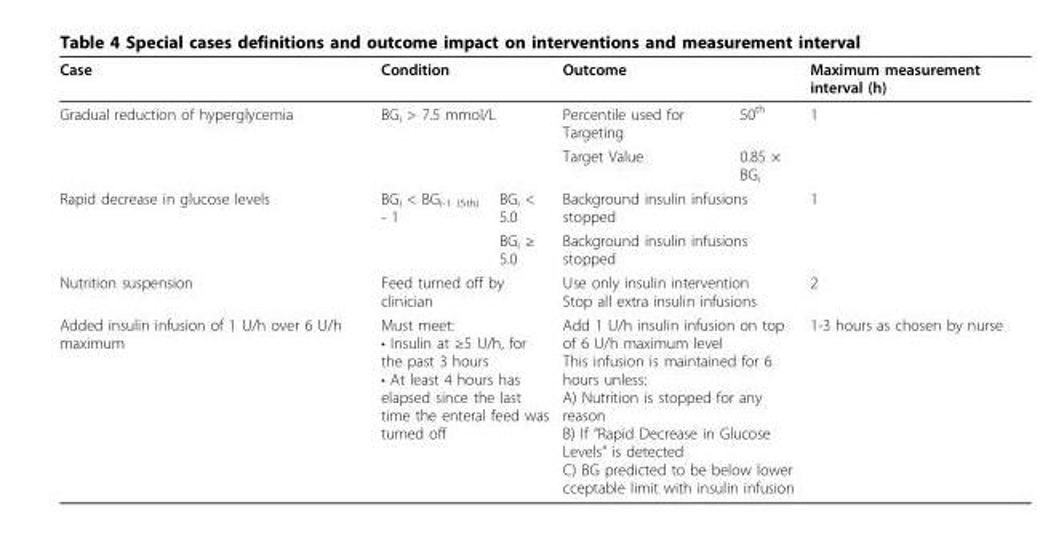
<table><thead><tr><td rowspan="3">Case Gradual reduction of hyperglycemia</td><td rowspan="2" colspan="2">Condition BG<sub>i</sub> &gt; 7.5 mmol/L</td><td colspan="2">Outcome</td><td rowspan="3">Maximum measurement interval (h) 1</td></tr><tr><td rowspan="2">Percentile used for Targeting Target Value</td><td rowspan="2">50<sup>th</sup> 0.85 × BG<sub>i</sub></td></tr><tr><td></td><td></td></tr></thead><tbody><tr><td rowspan="2">Rapid decrease in glucose levels</td><td>BG<sub>i</sub> &lt; BG<sub>i-1 (5th)</sub> - 1</td><td>BG<sub>i</sub> &lt; 5.0</td><td colspan="2">Background insulin infusions stopped</td><td>1</td></tr><tr><td></td><td>BG<sub>i</sub> ≥ 5.0</td><td colspan="2">Background insulin infusions stopped</td><td></td></tr><tr><td>Nutrition suspension</td><td colspan="2">Feed turned off by clinician</td><td colspan="2">Use only insulin intervention Stop all extra insulin infusions</td><td>2</td></tr><tr><td>Added insulin infusion of 1 U/h over 6 U/h maximum</td><td colspan="2">Must meet: • Insulin at ≥5 U/h, for the past 3 hours • At least 4 hours has elapsed since the last time the enteral feed was turned off</td><td colspan="2">Add 1 U/h insulin infusion on top of 6 U/h maximum level This infusion is maintained for 6 hours unless: A) Nutrition is stopped for any reason B) If “Rapid Decrease in Glucose Levels” is detected C) BG predicted to be below lower cceptable limit with insulin infusion</td><td>1-3 hours as chosen by nurse</td></tr></tbody></table>